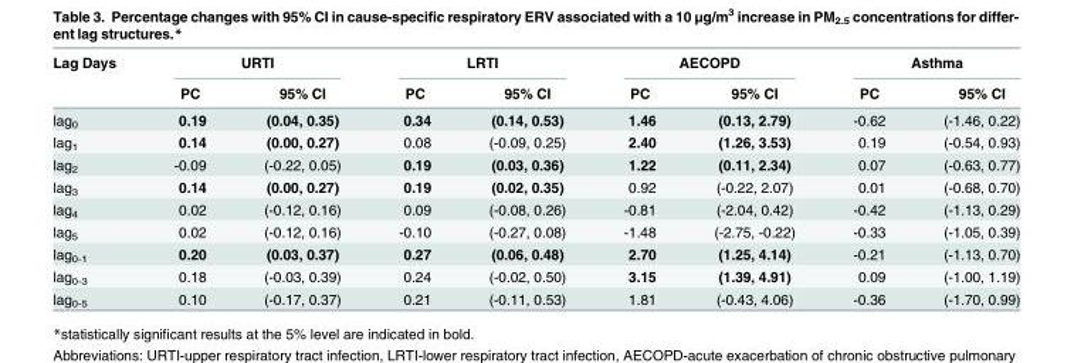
<table><thead><tr><td rowspan="2">Lag Days</td><td colspan="2">URTI</td><td colspan="2">LRTI</td><td colspan="2">AECOPD</td><td colspan="2">Asthma</td></tr><tr><td>PC</td><td>95% CI</td><td>PC</td><td>95% CI</td><td>PC</td><td>95% CI</td><td>PC</td><td>95% CI</td></tr></thead><tbody><tr><td>lag<sub>0</sub></td><td>0.19</td><td>(0.04, 0.35)</td><td>0.34</td><td>(0.14, 0.53)</td><td>1.46</td><td>(0.13, 2.79)</td><td>-0.62</td><td>(-1.46, 0.22)</td></tr><tr><td>lag<sub>1</sub></td><td>0.14</td><td>(0.00, 0.27)</td><td>0.08</td><td>(-0.09, 0.25)</td><td>2.40</td><td>(1.26, 3.53)</td><td>0.19</td><td>(-0.54, 0.93)</td></tr><tr><td>lag<sub>2</sub></td><td>-0.09</td><td>(-0.22, 0.05)</td><td>0.19</td><td>(0.03, 0.36)</td><td>1.22</td><td>(0.11, 2.34)</td><td>0.07</td><td>(-0.63, 0.77)</td></tr><tr><td>lag<sub>3</sub></td><td>0.14</td><td>(0.00, 0.27)</td><td>0.19</td><td>(0.02, 0.35)</td><td>0.92</td><td>(-0.22, 2.07)</td><td>0.01</td><td>(-0.68, 0.70)</td></tr><tr><td>lag<sub>4</sub></td><td>0.02</td><td>(-0.12, 0.16)</td><td>0.09</td><td>(-0.08, 0.26)</td><td>-0.81</td><td>(-2.04, 0.42)</td><td>-0.42</td><td>(-1.13, 0.29)</td></tr><tr><td>lag<sub>5</sub></td><td>0.02</td><td>(-0.12, 0.16)</td><td>-0.10</td><td>(-0.27, 0.08)</td><td>-1.48</td><td>(-2.75, -0.22)</td><td>-0.33</td><td>(-1.05, 0.39)</td></tr><tr><td>lag<sub>0-1</sub></td><td>0.20</td><td>(0.03, 0.37)</td><td>0.27</td><td>(0.06, 0.48)</td><td>2.70</td><td>(1.25, 4.14)</td><td>-0.21</td><td>(-1.13, 0.70)</td></tr><tr><td>lag<sub>0-3</sub></td><td>0.18</td><td>(-0.03, 0.39)</td><td>0.24</td><td>(-0.02, 0.50)</td><td>3.15</td><td>(1.39, 4.91)</td><td>0.09</td><td>(-1.00, 1.19)</td></tr><tr><td>lag<sub>0-5</sub></td><td>0.10</td><td>(-0.17, 0.37)</td><td>0.21</td><td>(-0.11, 0.53)</td><td>1.81</td><td>(-0.43, 4.06)</td><td>-0.36</td><td>(-1.70, 0.99)</td></tr></tbody></table>